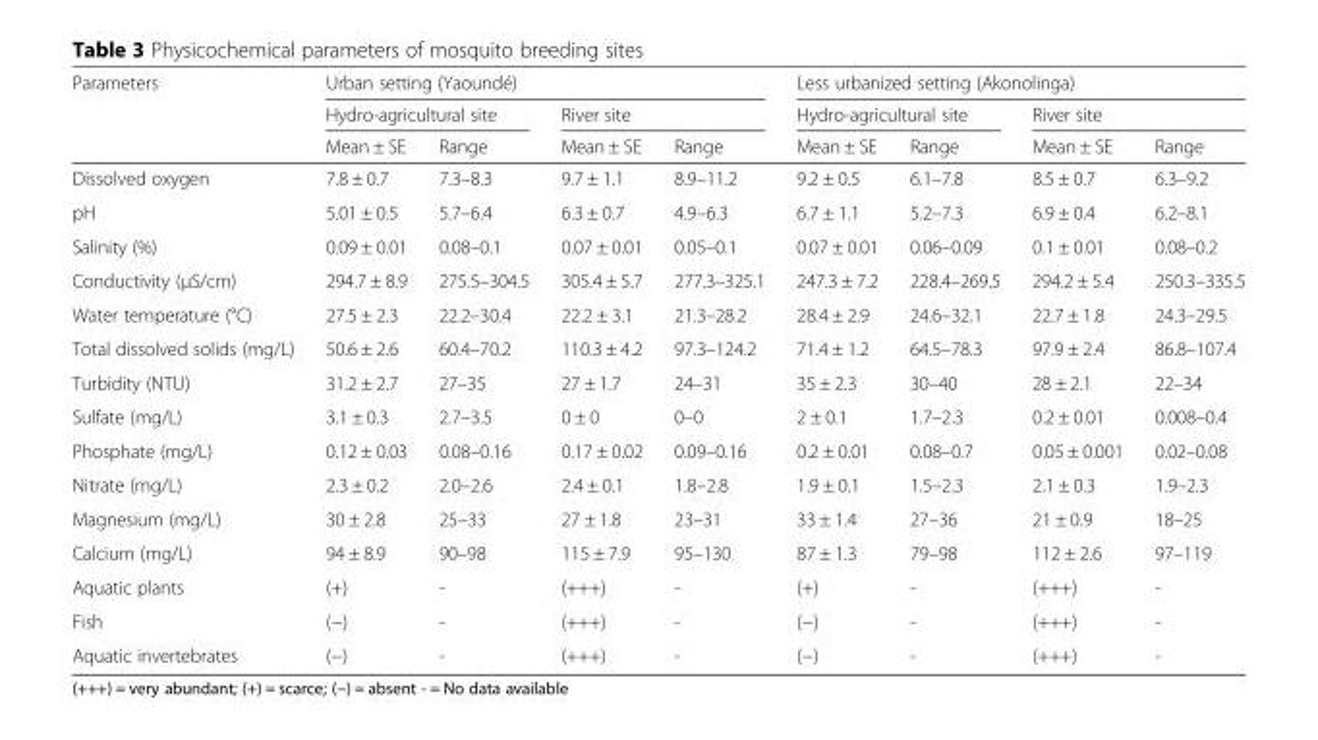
<table><thead><tr><td rowspan="3">Parameters</td><td colspan="4">Urban setting (Yaoundé)</td><td colspan="4">Less urbanized setting (Akonolinga)</td></tr><tr><td colspan="2">Hydro-agricultural site</td><td colspan="2">River site</td><td colspan="2">Hydro-agricultural site</td><td colspan="2">River site</td></tr><tr><td>Mean ± SE</td><td>Range</td><td>Mean ± SE</td><td>Range</td><td>Mean ± SE</td><td>Range</td><td>Mean ± SE</td><td>Range</td></tr></thead><tbody><tr><td>Dissolved oxygen</td><td>7.8 ± 0.7</td><td>7.3–8.3</td><td>9.7 ± 1.1</td><td>8.9–11.2</td><td>9.2 ± 0.5</td><td>6.1–7.8</td><td>8.5 ± 0.7</td><td>6.3–9.2</td></tr><tr><td>pH</td><td>5.01 ± 0.5</td><td>5.7–6.4</td><td>6.3 ± 0.7</td><td>4.9–6.3</td><td>6.7 ± 1.1</td><td>5.2–7.3</td><td>6.9 ± 0.4</td><td>6.2–8.1</td></tr><tr><td>Salinity (%)</td><td>0.09 ± 0.01</td><td>0.08–0.1</td><td>0.07 ± 0.01</td><td>0.05–0.1</td><td>0.07 ± 0.01</td><td>0.06–0.09</td><td>0.1 ± 0.01</td><td>0.08–0.2</td></tr><tr><td>Conductivity (μS/cm)</td><td>294.7 ± 8.9</td><td>275.5–304.5</td><td>305.4 ± 5.7</td><td>277.3–325.1</td><td>247.3 ± 7.2</td><td>228.4–269.5</td><td>294.2 ± 5.4</td><td>250.3–335.5</td></tr><tr><td>Water temperature (°C)</td><td>27.5 ± 2.3</td><td>22.2–30.4</td><td>22.2 ± 3.1</td><td>21.3–28.2</td><td>28.4 ± 2.9</td><td>24.6–32.1</td><td>22.7 ± 1.8</td><td>24.3–29.5</td></tr><tr><td>Total dissolved solids (mg/L)</td><td>50.6 ± 2.6</td><td>60.4–70.2</td><td>110.3 ± 4.2</td><td>97.3–124.2</td><td>71.4 ± 1.2</td><td>64.5–78.3</td><td>97.9 ± 2.4</td><td>86.8–107.4</td></tr><tr><td>Turbidity (NTU)</td><td>31.2 ± 2.7</td><td>27–35</td><td>27 ± 1.7</td><td>24–31</td><td>35 ± 2.3</td><td>30–40</td><td>28 ± 2.1</td><td>22–34</td></tr><tr><td>Sulfate (mg/L)</td><td>3.1 ± 0.3</td><td>2.7–3.5</td><td>0 ± 0</td><td>0–0</td><td>2 ± 0.1</td><td>1.7–2.3</td><td>0.2 ± 0.01</td><td>0.008–0.4</td></tr><tr><td>Phosphate (mg/L)</td><td>0.12 ± 0.03</td><td>0.08–0.16</td><td>0.17 ± 0.02</td><td>0.09–0.16</td><td>0.2 ± 0.01</td><td>0.08–0.7</td><td>0.05 ± 0.001</td><td>0.02–0.08</td></tr><tr><td>Nitrate (mg/L)</td><td>2.3 ± 0.2</td><td>2.0–2.6</td><td>2.4 ± 0.1</td><td>1.8–2.8</td><td>1.9 ± 0.1</td><td>1.5–2.3</td><td>2.1 ± 0.3</td><td>1.9–2.3</td></tr><tr><td>Magnesium (mg/L)</td><td>30 ± 2.8</td><td>25–33</td><td>27 ± 1.8</td><td>23–31</td><td>33 ± 1.4</td><td>27–36</td><td>21 ± 0.9</td><td>18–25</td></tr><tr><td>Calcium (mg/L)</td><td>94 ± 8.9</td><td>90–98</td><td>115 ± 7.9</td><td>95–130</td><td>87 ± 1.3</td><td>79–98</td><td>112 ± 2.6</td><td>97–119</td></tr><tr><td>Aquatic plants</td><td>(+)</td><td>-</td><td>(+++)</td><td>-</td><td>(+)</td><td>-</td><td>(+++)</td><td>-</td></tr><tr><td>Fish</td><td>(−)</td><td>-</td><td>(+++)</td><td>-</td><td>(−)</td><td>-</td><td>(+++)</td><td>-</td></tr><tr><td>Aquatic invertebrates</td><td>(−)</td><td>-</td><td>(+++)</td><td>-</td><td>(−)</td><td>-</td><td>(+++)</td><td>-</td></tr></tbody></table>